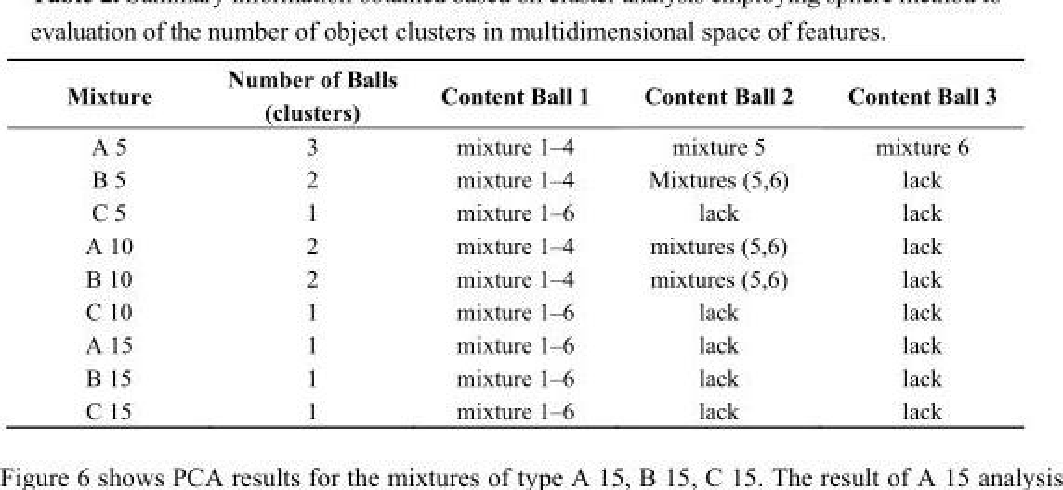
<table><thead><tr><td>Mixture</td><td>Number of Balls (clusters)</td><td>Content Ball 1</td><td>Content Ball 2</td><td>Content Ball 3</td></tr></thead><tbody><tr><td>A 5</td><td>3</td><td>mixture 1–4</td><td>mixture 5</td><td>mixture 6</td></tr><tr><td>B 5</td><td>2</td><td>mixture 1–4</td><td>Mixtures (5,6)</td><td>lack</td></tr><tr><td>C 5</td><td>1</td><td>mixture 1–6</td><td>lack</td><td>lack</td></tr><tr><td>A 10</td><td>2</td><td>mixture 1–4</td><td>mixtures (5,6)</td><td>lack</td></tr><tr><td>B 10</td><td>2</td><td>mixture 1–4</td><td>mixtures (5,6)</td><td>lack</td></tr><tr><td>C 10</td><td>1</td><td>mixture 1–6</td><td>lack</td><td>lack</td></tr><tr><td>A 15</td><td>1</td><td>mixture 1–6</td><td>lack</td><td>lack</td></tr><tr><td>B 15</td><td>1</td><td>mixture 1–6</td><td>lack</td><td>lack</td></tr><tr><td>C 15</td><td>1</td><td>mixture 1–6</td><td>lack</td><td>lack</td></tr></tbody></table>